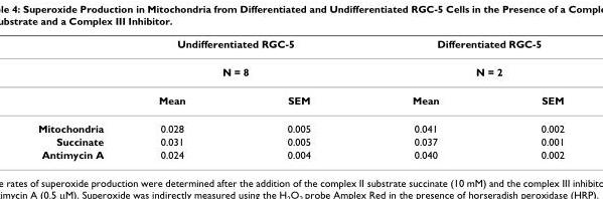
<table><thead><tr><td rowspan="3"></td><td rowspan="2" colspan="2">Undifferentiated RGC-5 N = 8</td><td rowspan="2" colspan="2">Differentiated RGC-5 N = 2</td></tr><tr></tr><tr><td>Mean</td><td>SEM</td><td>Mean</td><td>SEM</td></tr></thead><tbody><tr><td>Mitochondria</td><td>0.028</td><td>0.005</td><td>0.041</td><td>0.002</td></tr><tr><td>Succinate</td><td>0.031</td><td>0.005</td><td>0.037</td><td>0.001</td></tr><tr><td>Antimycin A</td><td>0.024</td><td>0.004</td><td>0.040</td><td>0.002</td></tr></tbody></table>